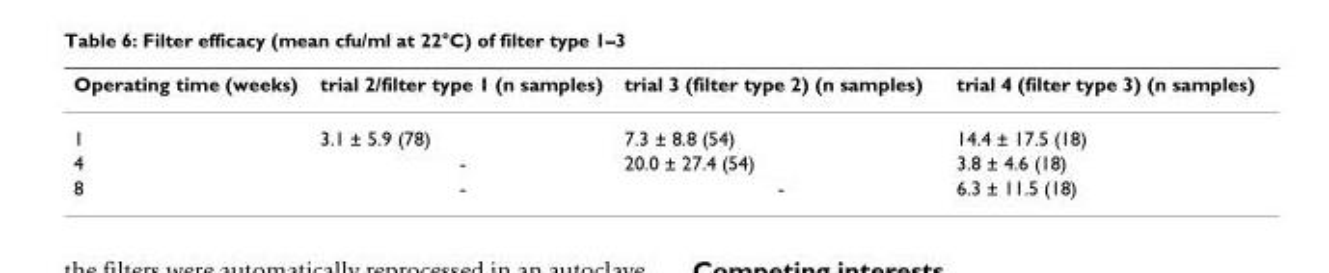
<table><thead><tr><td>Operating time (weeks)</td><td>trial 2/filter type 1 (n samples)</td><td>trial 3 (filter type 2) (n samples)</td><td>trial 4 (filter type 3) (n samples)</td></tr></thead><tbody><tr><td>1</td><td>3.1 ± 5.9 (78)</td><td>7.3 ± 8.8 (54)</td><td>14.4 ± 17.5 (18)</td></tr><tr><td>4</td><td>-</td><td>20.0 ± 27.4 (54)</td><td>3.8 ± 4.6 (18)</td></tr><tr><td>8</td><td>-</td><td>-</td><td>6.3 ± 11.5 (18)</td></tr></tbody></table>